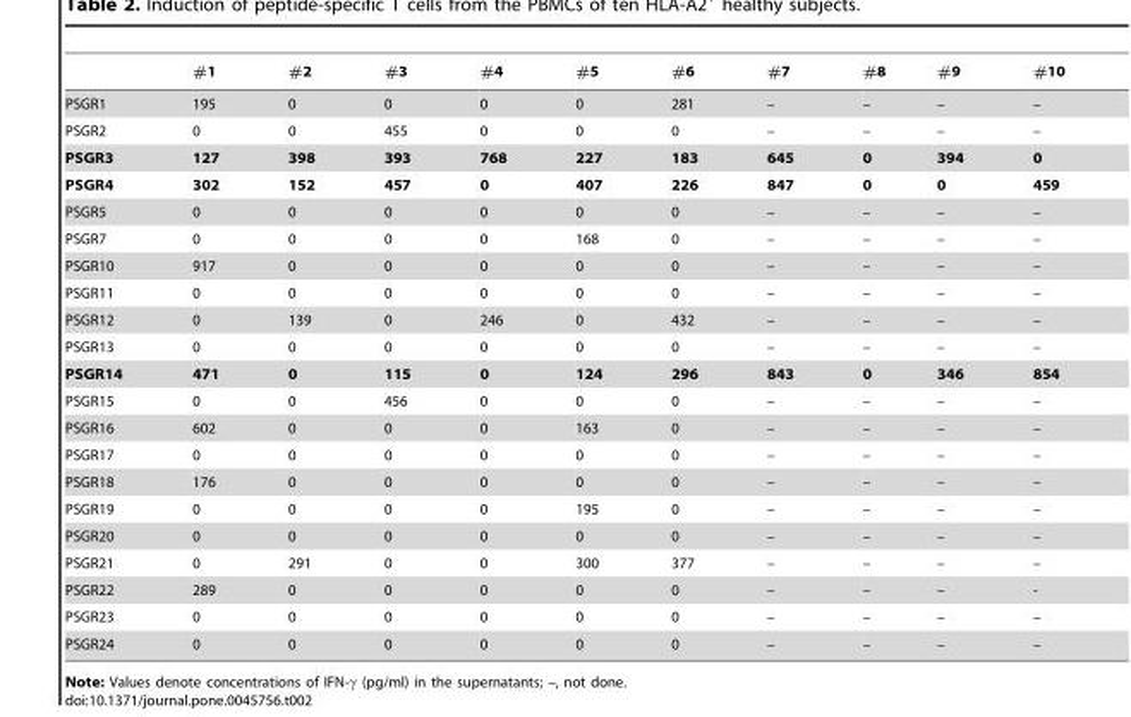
<table><thead><tr><td></td><td>#1</td><td>#2</td><td>#3</td><td>#4</td><td>#5</td><td>#6</td><td>#7</td><td>#8</td><td>#9</td><td>#10</td></tr></thead><tbody><tr><td>PSGR1</td><td>195</td><td>0</td><td>0</td><td>0</td><td>0</td><td>281</td><td>–</td><td>–</td><td>–</td><td>–</td></tr><tr><td>PSGR2</td><td>0</td><td>0</td><td>455</td><td>0</td><td>0</td><td>0</td><td>–</td><td>–</td><td>–</td><td>–</td></tr><tr><td>PSGR3</td><td>127</td><td>398</td><td>393</td><td>768</td><td>227</td><td>183</td><td>645</td><td>0</td><td>394</td><td>0</td></tr><tr><td>PSGR4</td><td>302</td><td>152</td><td>457</td><td>0</td><td>407</td><td>226</td><td>847</td><td>0</td><td>0</td><td>459</td></tr><tr><td>PSGR5</td><td>0</td><td>0</td><td>0</td><td>0</td><td>0</td><td>0</td><td>–</td><td>–</td><td>–</td><td>–</td></tr><tr><td>PSGR7</td><td>0</td><td>0</td><td>0</td><td>0</td><td>168</td><td>0</td><td>–</td><td>–</td><td>–</td><td>–</td></tr><tr><td>PSGR10</td><td>917</td><td>0</td><td>0</td><td>0</td><td>0</td><td>0</td><td>–</td><td>–</td><td>–</td><td>–</td></tr><tr><td>PSGR11</td><td>0</td><td>0</td><td>0</td><td>0</td><td>0</td><td>0</td><td>–</td><td>–</td><td>–</td><td>–</td></tr><tr><td>PSGR12</td><td>0</td><td>139</td><td>0</td><td>246</td><td>0</td><td>432</td><td>–</td><td>–</td><td>–</td><td>–</td></tr><tr><td>PSGR13</td><td>0</td><td>0</td><td>0</td><td>0</td><td>0</td><td>0</td><td>–</td><td>–</td><td>–</td><td>–</td></tr><tr><td>PSGR14</td><td>471</td><td>0</td><td>115</td><td>0</td><td>124</td><td>296</td><td>843</td><td>0</td><td>346</td><td>854</td></tr><tr><td>PSGR15</td><td>0</td><td>0</td><td>456</td><td>0</td><td>0</td><td>0</td><td>–</td><td>–</td><td>–</td><td>–</td></tr><tr><td>PSGR16</td><td>602</td><td>0</td><td>0</td><td>0</td><td>163</td><td>0</td><td>–</td><td>–</td><td>–</td><td>–</td></tr><tr><td>PSGR17</td><td>0</td><td>0</td><td>0</td><td>0</td><td>0</td><td>0</td><td>–</td><td>–</td><td>–</td><td>–</td></tr><tr><td>PSGR18</td><td>176</td><td>0</td><td>0</td><td>0</td><td>0</td><td>0</td><td>–</td><td>–</td><td>–</td><td>–</td></tr><tr><td>PSGR19</td><td>0</td><td>0</td><td>0</td><td>0</td><td>195</td><td>0</td><td>–</td><td>–</td><td>–</td><td>–</td></tr><tr><td>PSGR20</td><td>0</td><td>0</td><td>0</td><td>0</td><td>0</td><td>0</td><td>–</td><td>–</td><td>–</td><td>–</td></tr><tr><td>PSGR21</td><td>0</td><td>291</td><td>0</td><td>0</td><td>300</td><td>377</td><td>–</td><td>–</td><td>–</td><td>–</td></tr><tr><td>PSGR22</td><td>289</td><td>0</td><td>0</td><td>0</td><td>0</td><td>0</td><td>–</td><td>–</td><td>–</td><td>-</td></tr><tr><td>PSGR23</td><td>0</td><td>0</td><td>0</td><td>0</td><td>0</td><td>0</td><td>–</td><td>–</td><td>–</td><td>–</td></tr><tr><td>PSGR24</td><td>0</td><td>0</td><td>0</td><td>0</td><td>0</td><td>0</td><td>–</td><td>–</td><td>–</td><td>–</td></tr></tbody></table>